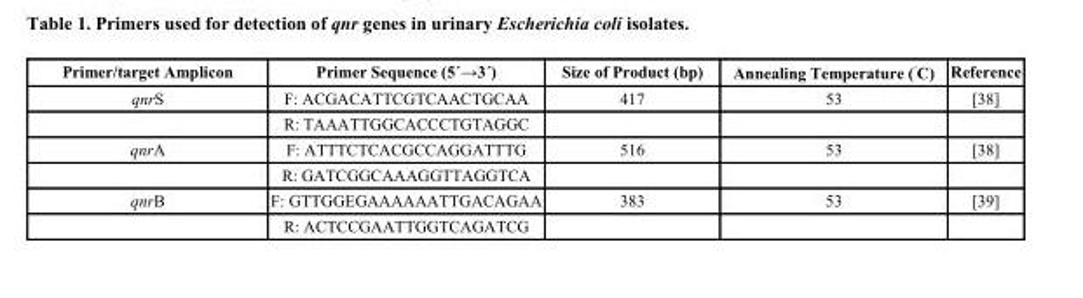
<table><thead><tr><td>Primer/target Amplicon</td><td>Primer Sequence (5´→3´)</td><td>Size of Product (bp)</td><td>Annealing Temperature ( <sup>◦</sup>C)</td><td>Reference</td></tr></thead><tbody><tr><td rowspan="2">qnrS</td><td>F: ACGACATTCGTCAACTGCAA</td><td>417</td><td>53</td><td>[38]</td></tr><tr><td>R: TAAATTGGCACCCTGTAGGC</td><td></td><td></td><td></td></tr><tr><td rowspan="2">qnrA</td><td>F: ATTTCTCACGCCAGGATTTG</td><td>516</td><td>53</td><td>[38]</td></tr><tr><td>R: GATCGGCAAAGGTTAGGTCA</td><td></td><td></td><td></td></tr><tr><td rowspan="2">qnrB</td><td>F: GTTGGEGAAAAAATTGACAGAA</td><td>383</td><td>53</td><td>[39]</td></tr><tr><td>R: ACTCCGAATTGGTCAGATCG</td><td></td><td></td><td></td></tr></tbody></table>